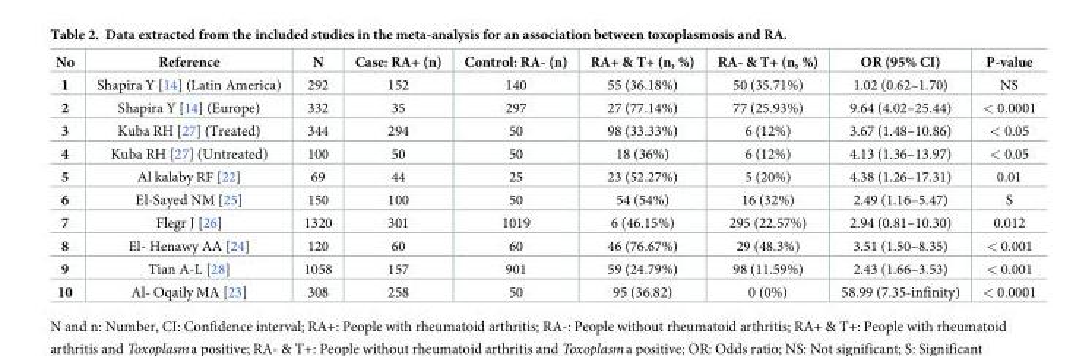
<table><thead><tr><td>No</td><td>Reference</td><td>N</td><td>Case: RA+ (n)</td><td>Control: RA- (n)</td><td>RA+ &amp; T+ (n, %)</td><td>RA- &amp; T+ (n, %)</td><td>OR (95% CI)</td><td>P-value</td></tr></thead><tbody><tr><td>1</td><td>Shapira Y [14] (Latin America)</td><td>292</td><td>152</td><td>140</td><td>55 (36.18%)</td><td>50 (35.71%)</td><td>1.02 (0.62–1.70)</td><td>NS</td></tr><tr><td>2</td><td>Shapira Y [14] (Europe)</td><td>332</td><td>35</td><td>297</td><td>27 (77.14%)</td><td>77 (25.93%)</td><td>9.64 (4.02–25.44)</td><td>&lt; 0.0001</td></tr><tr><td>3</td><td>Kuba RH [27] (Treated)</td><td>344</td><td>294</td><td>50</td><td>98 (33.33%)</td><td>6 (12%)</td><td>3.67 (1.48–10.86)</td><td>&lt; 0.05</td></tr><tr><td>4</td><td>Kuba RH [27] (Untreated)</td><td>100</td><td>50</td><td>50</td><td>18 (36%)</td><td>6 (12%)</td><td>4.13 (1.36–13.97)</td><td>&lt; 0.05</td></tr><tr><td>5</td><td>Al kalaby RF [22]</td><td>69</td><td>44</td><td>25</td><td>23 (52.27%)</td><td>5 (20%)</td><td>4.38 (1.26–17.31)</td><td>0.01</td></tr><tr><td>6</td><td>El-Sayed NM [25]</td><td>150</td><td>100</td><td>50</td><td>54 (54%)</td><td>16 (32%)</td><td>2.49 (1.16–5.47)</td><td>S</td></tr><tr><td>7</td><td>Flegr J [26]</td><td>1320</td><td>301</td><td>1019</td><td>6 (46.15%)</td><td>295 (22.57%)</td><td>2.94 (0.81–10.30)</td><td>0.012</td></tr><tr><td>8</td><td>El- Henawy AA [24]</td><td>120</td><td>60</td><td>60</td><td>46 (76.67%)</td><td>29 (48.3%)</td><td>3.51 (1.50–8.35)</td><td>&lt; 0.001</td></tr><tr><td>9</td><td>Tian A-L [28]</td><td>1058</td><td>157</td><td>901</td><td>59 (24.79%)</td><td>98 (11.59%)</td><td>2.43 (1.66–3.53)</td><td>&lt; 0.001</td></tr><tr><td>10</td><td>Al- Oqaily MA [23]</td><td>308</td><td>258</td><td>50</td><td>95 (36.82)</td><td>0 (0%)</td><td>58.99 (7.35-infinity)</td><td>&lt; 0.0001</td></tr></tbody></table>